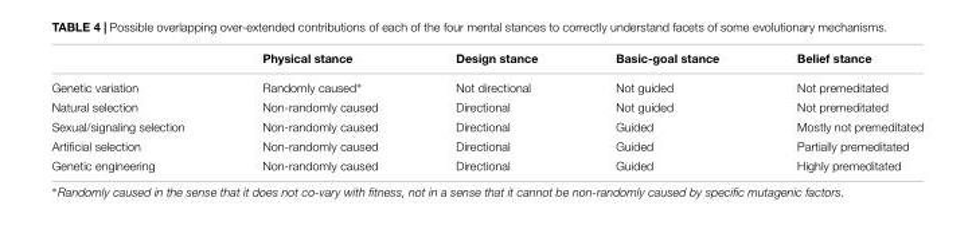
<table><thead><tr><td></td><td>Physical stance</td><td>Design stance</td><td>Basic-goal stance</td><td>Belief stance</td></tr></thead><tbody><tr><td>Genetic variation</td><td>Randomly caused∗</td><td>Not directional</td><td>Not guided</td><td>Not premeditated</td></tr><tr><td>Natural selection</td><td>Non-randomly caused</td><td>Directional</td><td>Not guided</td><td>Not premeditated</td></tr><tr><td>Sexual/signaling selection</td><td>Non-randomly caused</td><td>Directional</td><td>Guided</td><td>Mostly not premeditated</td></tr><tr><td>Artificial selection</td><td>Non-randomly caused</td><td>Directional</td><td>Guided</td><td>Partially premeditated</td></tr><tr><td>Genetic engineering</td><td>Non-randomly caused</td><td>Directional</td><td>Guided</td><td>Highly premeditated</td></tr></tbody></table>